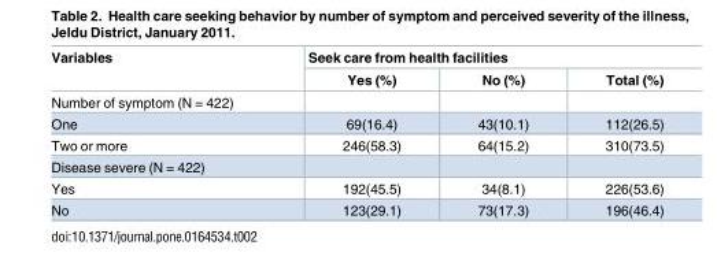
<table><thead><tr><td rowspan="2">Variables</td><td colspan="3">Seek care from health facilities</td></tr><tr><td>Yes (%)</td><td>No (%)</td><td>Total (%)</td></tr></thead><tbody><tr><td colspan="4">Number of symptom (N = 422)</td></tr><tr><td>One</td><td>69(16.4)</td><td>43(10.1)</td><td>112(26.5)</td></tr><tr><td>Two or more</td><td>246(58.3)</td><td>64(15.2)</td><td>310(73.5)</td></tr><tr><td colspan="4">Disease severe (N = 422)</td></tr><tr><td>Yes</td><td>192(45.5)</td><td>34(8.1)</td><td>226(53.6)</td></tr><tr><td>No</td><td>123(29.1)</td><td>73(17.3)</td><td>196(46.4)</td></tr></tbody></table>